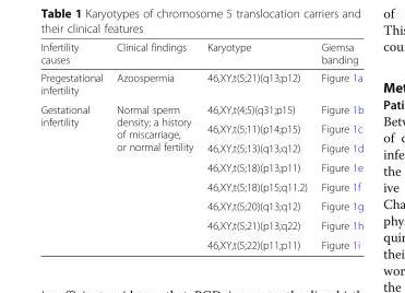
<table><thead><tr><td>Infertility causes</td><td>Clinical findings</td><td>Karyotype</td><td>Giemsa banding</td></tr></thead><tbody><tr><td>Pregestational infertility</td><td>Azoospermia</td><td>46,XY,t(5;21)(q13;p12)</td><td>Figure 1a</td></tr><tr><td rowspan="8">Gestational infertility</td><td rowspan="8">Normal sperm density; a history of miscarriage, or normal fertility</td><td>46,XY,t(4;5)(q31;p15)</td><td>Figure 1b</td></tr><tr><td>46,XY,t(5;11)(p14;p15)</td><td>Figure 1c</td></tr><tr><td>46,XY,t(5;13)(q13;q12)</td><td>Figure 1d</td></tr><tr><td>46,XY,t(5;18)(p13;p11)</td><td>Figure 1e</td></tr><tr><td>46,XY,t(5;18)(p15;q11.2)</td><td>Figure 1f</td></tr><tr><td>46,XY,t(5;20)(q13;q12)</td><td>Figure 1g</td></tr><tr><td>46,XY,t(5;21)(p13;q22)</td><td>Figure 1h</td></tr><tr><td>46,XY,t(5;22)(p11;p11)</td><td>Figure 1i</td></tr></tbody></table>